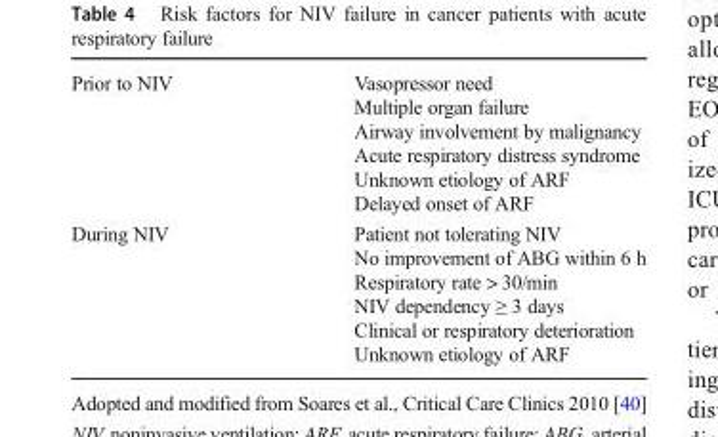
<table><tbody><tr><td>Prior to NIV</td><td>Vasopressor need Multiple organ failure Airway involvement by malignancy Acute respiratory distress syndrome Unknown etiology of ARF Delayed onset of ARF</td></tr><tr><td>During NIV</td><td>Patient not tolerating NIV No improvement of ABG within 6 h Respiratory rate &gt; 30/min NIV dependency ≥ 3 days Clinical or respiratory deterioration Unknown etiology of ARF</td></tr></tbody></table>